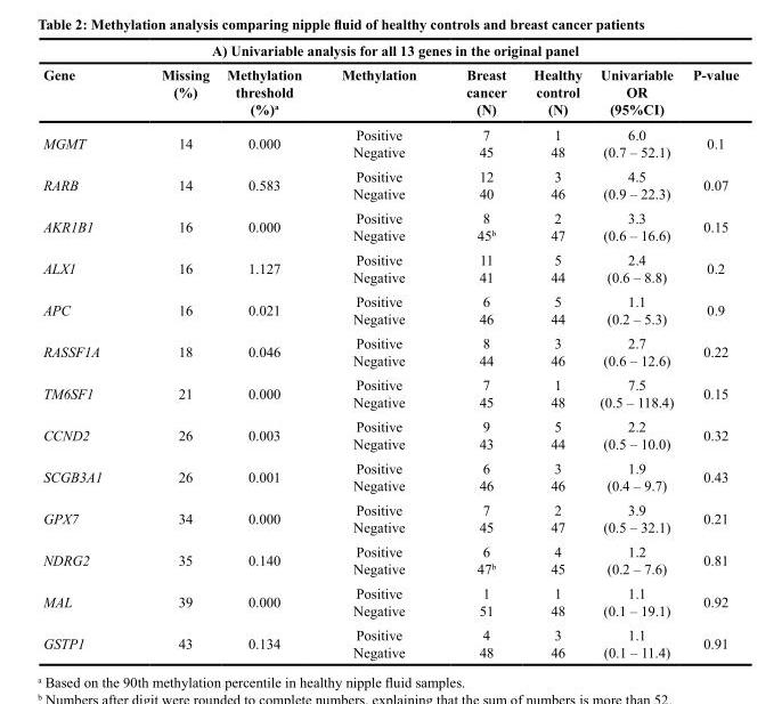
<table><thead><tr><td colspan="8">A) Univariable analysis for all 13 genes in the original panel</td></tr><tr><td>Gene</td><td>Missing (%)</td><td>Methylation threshold (%)<sup>a</sup></td><td>Methylation</td><td>Breast cancer (N)</td><td>Healthy control (N)</td><td>Univariable OR (95%CI)</td><td>P-value</td></tr></thead><tbody><tr><td>MGMT</td><td>14</td><td>0.000</td><td>Positive Negative</td><td>7 45</td><td>1 48</td><td>6.0 (0.7 – 52.1)</td><td>0.1</td></tr><tr><td>RARB</td><td>14</td><td>0.583</td><td>Positive Negative</td><td>12 40</td><td>3 46</td><td>4.5 (0.9 – 22.3)</td><td>0.07</td></tr><tr><td>AKR1B1</td><td>16</td><td>0.000</td><td>Positive Negative</td><td>8 45<sup>b</sup></td><td>2 47</td><td>3.3 (0.6 – 16.6)</td><td>0.15</td></tr><tr><td>ALX1</td><td>16</td><td>1.127</td><td>Positive Negative</td><td>11 41</td><td>5 44</td><td>2.4 (0.6 – 8.8)</td><td>0.2</td></tr><tr><td>APC</td><td>16</td><td>0.021</td><td>Positive Negative</td><td>6 46</td><td>5 44</td><td>1.1 (0.2 – 5.3)</td><td>0.9</td></tr><tr><td>RASSF1A</td><td>18</td><td>0.046</td><td>Positive Negative</td><td>8 44</td><td>3 46</td><td>2.7 (0.6 – 12.6)</td><td>0.22</td></tr><tr><td>TM6SF1</td><td>21</td><td>0.000</td><td>Positive Negative</td><td>7 45</td><td>1 48</td><td>7.5 (0.5 – 118.4)</td><td>0.15</td></tr><tr><td>CCND2</td><td>26</td><td>0.003</td><td>Positive Negative</td><td>9 43</td><td>5 44</td><td>2.2 (0.5 – 10.0)</td><td>0.32</td></tr><tr><td>SCGB3A1</td><td>26</td><td>0.001</td><td>Positive Negative</td><td>6 46</td><td>3 46</td><td>1.9 (0.4 – 9.7)</td><td>0.43</td></tr><tr><td>GPX7</td><td>34</td><td>0.000</td><td>Positive Negative</td><td>7 45</td><td>2 47</td><td>3.9 (0.5 – 32.1)</td><td>0.21</td></tr><tr><td>NDRG2</td><td>35</td><td>0.140</td><td>Positive Negative</td><td>6 47<sup>b</sup></td><td>4 45</td><td>1.2 (0.2 – 7.6)</td><td>0.81</td></tr><tr><td>MAL</td><td>39</td><td>0.000</td><td>Positive Negative</td><td>1 51</td><td>1 48</td><td>1.1 (0.1 – 19.1)</td><td>0.92</td></tr><tr><td>GSTP1</td><td>43</td><td>0.134</td><td>Positive Negative</td><td>4 48</td><td>3 46</td><td>1.1 (0.1 – 11.4)</td><td>0.91</td></tr></tbody></table>